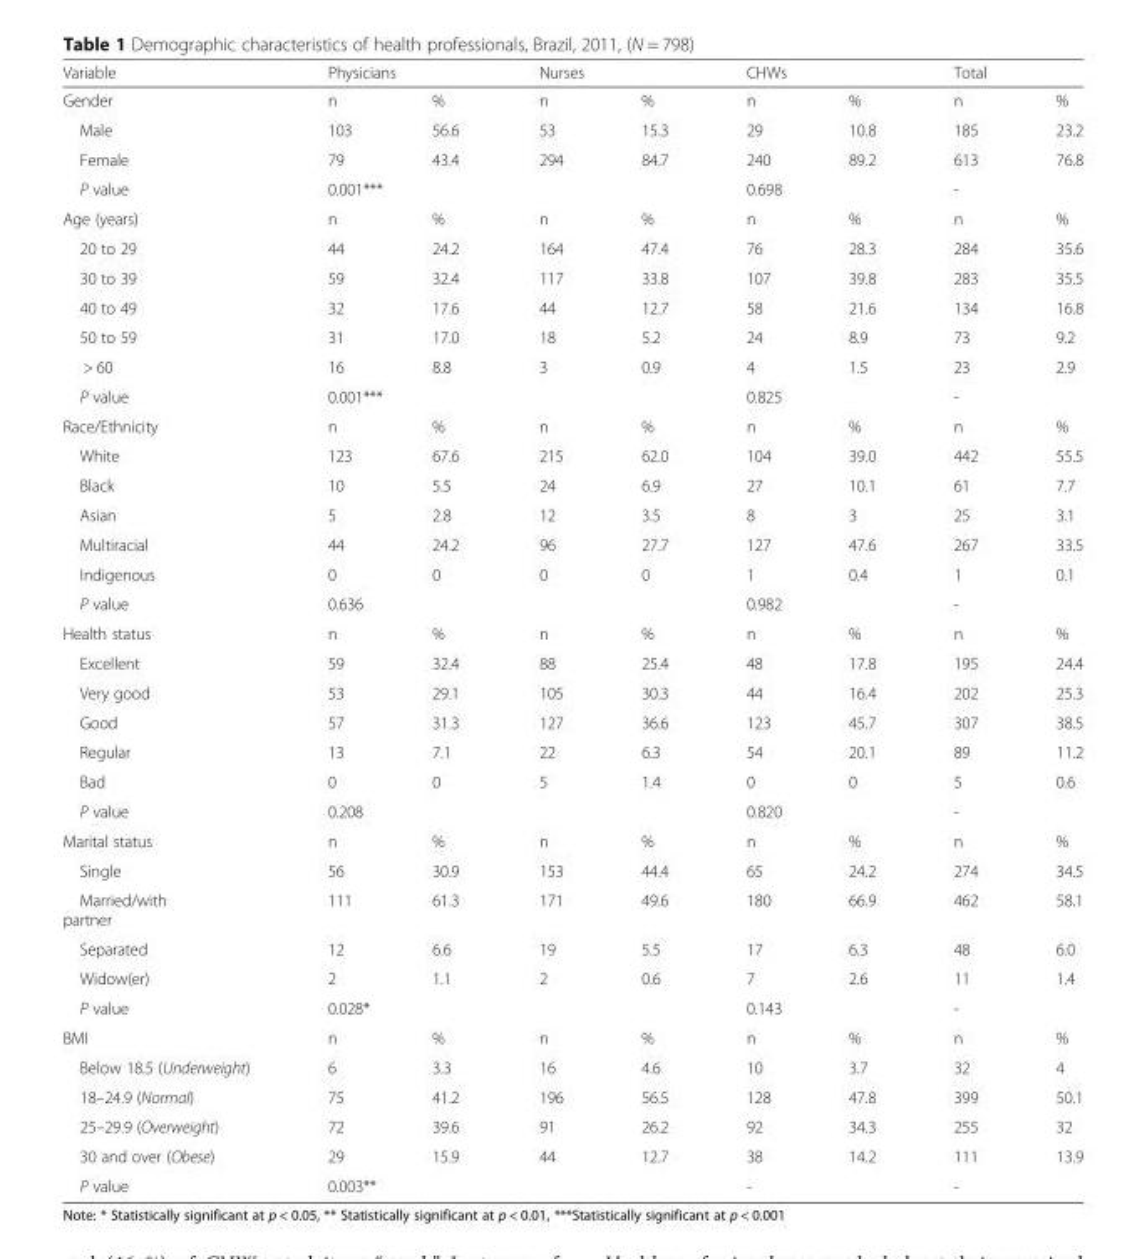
<table><thead><tr><td rowspan="2">Variable Gender</td><td colspan="2">Physicians</td><td colspan="2">Nurses</td><td colspan="2">CHWs</td><td colspan="2">Total</td></tr><tr><td>n</td><td>%</td><td>n</td><td>%</td><td>n</td><td>%</td><td>n</td><td>%</td></tr></thead><tbody><tr><td>Male</td><td>103</td><td>56.6</td><td>53</td><td>15.3</td><td>29</td><td>10.8</td><td>185</td><td>23.2</td></tr><tr><td>Female</td><td>79</td><td>43.4</td><td>294</td><td>84.7</td><td>240</td><td>89.2</td><td>613</td><td>76.8</td></tr><tr><td>P value</td><td colspan="4">0.001***</td><td colspan="2">0.698</td><td colspan="2">-</td></tr><tr><td>Age (years)</td><td>n</td><td>%</td><td>n</td><td>%</td><td>n</td><td>%</td><td>n</td><td>%</td></tr><tr><td>20 to 29</td><td>44</td><td>24.2</td><td>164</td><td>47.4</td><td>76</td><td>28.3</td><td>284</td><td>35.6</td></tr><tr><td>30 to 39</td><td>59</td><td>32.4</td><td>117</td><td>33.8</td><td>107</td><td>39.8</td><td>283</td><td>35.5</td></tr><tr><td>40 to 49</td><td>32</td><td>17.6</td><td>44</td><td>12.7</td><td>58</td><td>21.6</td><td>134</td><td>16.8</td></tr><tr><td>50 to 59</td><td>31</td><td>17.0</td><td>18</td><td>5.2</td><td>24</td><td>8.9</td><td>73</td><td>9.2</td></tr><tr><td>&gt; 60</td><td>16</td><td>8.8</td><td>3</td><td>0.9</td><td>4</td><td>1.5</td><td>23</td><td>2.9</td></tr><tr><td>P value</td><td colspan="4">0.001***</td><td colspan="2">0.825</td><td colspan="2">-</td></tr><tr><td>Race/Ethnicity</td><td>n</td><td>%</td><td>n</td><td>%</td><td>n</td><td>%</td><td>n</td><td>%</td></tr><tr><td>White</td><td>123</td><td>67.6</td><td>215</td><td>62.0</td><td>104</td><td>39.0</td><td>442</td><td>55.5</td></tr><tr><td>Black</td><td>10</td><td>5.5</td><td>24</td><td>6.9</td><td>27</td><td>10.1</td><td>61</td><td>7.7</td></tr><tr><td>Asian</td><td>5</td><td>2.8</td><td>12</td><td>3.5</td><td>8</td><td>3</td><td>25</td><td>3.1</td></tr><tr><td>Multiracial</td><td>44</td><td>24.2</td><td>96</td><td>27.7</td><td>127</td><td>47.6</td><td>267</td><td>33.5</td></tr><tr><td>Indigenous</td><td>0</td><td>0</td><td>0</td><td>0</td><td>1</td><td>0.4</td><td>1</td><td>0.1</td></tr><tr><td>P value</td><td colspan="4">0.636</td><td colspan="2">0.982</td><td colspan="2">-</td></tr><tr><td>Health status</td><td>n</td><td>%</td><td>n</td><td>%</td><td>n</td><td>%</td><td>n</td><td>%</td></tr><tr><td>Excellent</td><td>59</td><td>32.4</td><td>88</td><td>25.4</td><td>48</td><td>17.8</td><td>195</td><td>24.4</td></tr><tr><td>Very good</td><td>53</td><td>29.1</td><td>105</td><td>30.3</td><td>44</td><td>16.4</td><td>202</td><td>25.3</td></tr><tr><td>Good</td><td>57</td><td>31.3</td><td>127</td><td>36.6</td><td>123</td><td>45.7</td><td>307</td><td>38.5</td></tr><tr><td>Regular</td><td>13</td><td>7.1</td><td>22</td><td>6.3</td><td>54</td><td>20.1</td><td>89</td><td>11.2</td></tr><tr><td>Bad</td><td>0</td><td>0</td><td>5</td><td>1.4</td><td>0</td><td>0</td><td>5</td><td>0.6</td></tr><tr><td>P value</td><td colspan="4">0.208</td><td colspan="2">0.820</td><td colspan="2">-</td></tr><tr><td>Marital status</td><td>n</td><td>%</td><td>n</td><td>%</td><td>n</td><td>%</td><td>n</td><td>%</td></tr><tr><td>Single</td><td>56</td><td>30.9</td><td>153</td><td>44.4</td><td>65</td><td>24.2</td><td>274</td><td>34.5</td></tr><tr><td>Married/with partner</td><td>111</td><td>61.3</td><td>171</td><td>49.6</td><td>180</td><td>66.9</td><td>462</td><td>58.1</td></tr><tr><td>Separated</td><td>12</td><td>6.6</td><td>19</td><td>5.5</td><td>17</td><td>6.3</td><td>48</td><td>6.0</td></tr><tr><td>Widow(er)</td><td>2</td><td>1.1</td><td>2</td><td>0.6</td><td>7</td><td>2.6</td><td>11</td><td>1.4</td></tr><tr><td>P value</td><td colspan="4">0.028*</td><td colspan="2">0.143</td><td colspan="2">-</td></tr><tr><td>BMI</td><td>n</td><td>%</td><td>n</td><td>%</td><td>n</td><td>%</td><td>n</td><td>%</td></tr><tr><td>Below 18.5 (Underweight)</td><td>6</td><td>3.3</td><td>16</td><td>4.6</td><td>10</td><td>3.7</td><td>32</td><td>4</td></tr><tr><td>18–24.9 (Normal)</td><td>75</td><td>41.2</td><td>196</td><td>56.5</td><td>128</td><td>47.8</td><td>399</td><td>50.1</td></tr><tr><td>25–29.9 (Overweight)</td><td>72</td><td>39.6</td><td>91</td><td>26.2</td><td>92</td><td>34.3</td><td>255</td><td>32</td></tr><tr><td>30 and over (Obese)</td><td>29</td><td>15.9</td><td>44</td><td>12.7</td><td>38</td><td>14.2</td><td>111</td><td>13.9</td></tr><tr><td>P value</td><td colspan="4">0.003**</td><td colspan="2">-</td><td colspan="2">-</td></tr></tbody></table>